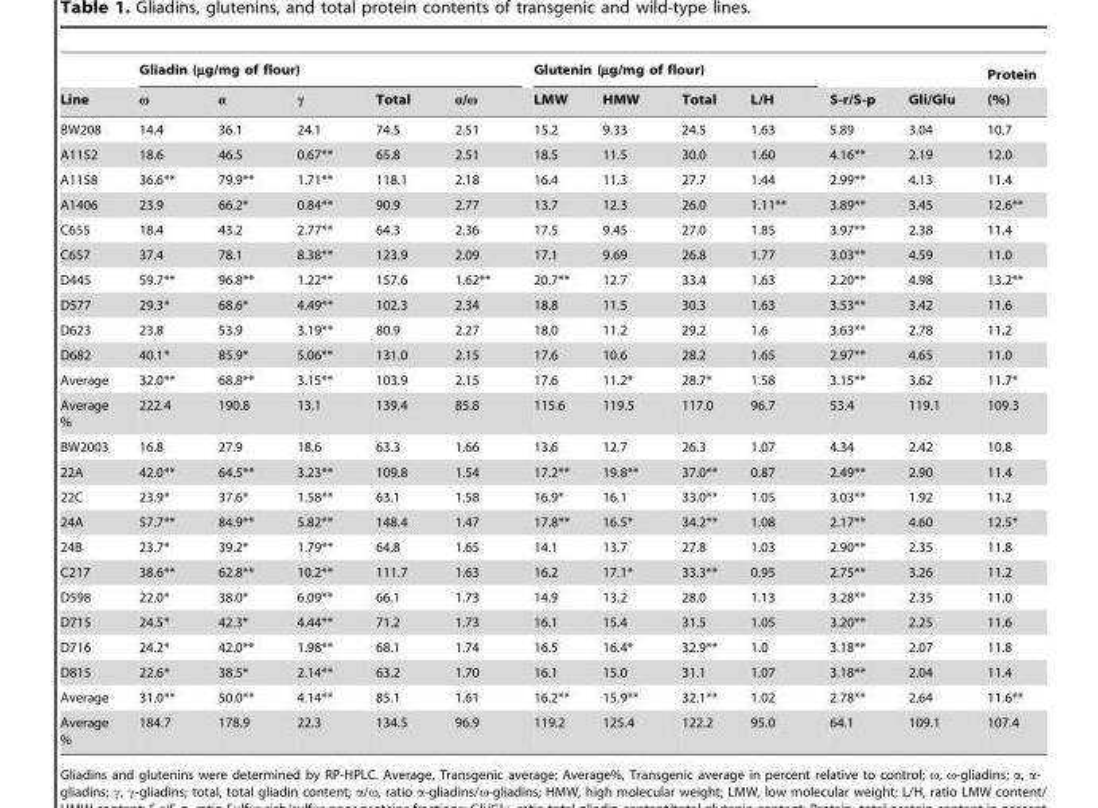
<table><thead><tr><td rowspan="2">Line</td><td colspan="5">Gliadin (µg/mg of flour)</td><td colspan="4">Glutenin (µg/mg of flour)</td><td rowspan="2">S-r/S-p</td><td rowspan="2">Gli/Glu</td><td rowspan="2">Protein (%)</td></tr><tr><td>ω</td><td>α</td><td>γ</td><td>Total</td><td>α/ω</td><td>LMW</td><td>HMW</td><td>Total</td><td>L/H</td></tr></thead><tbody><tr><td>BW208</td><td>14.4</td><td>36.1</td><td>24.1</td><td>74.5</td><td>2.51</td><td>15.2</td><td>9.33</td><td>24.5</td><td>1.63</td><td>5.89</td><td>3.04</td><td>10.7</td></tr><tr><td>A1152</td><td>18.6</td><td>46.5</td><td>0.67**</td><td>65.8</td><td>2.51</td><td>18.5</td><td>11.5</td><td>30.0</td><td>1.60</td><td>4.16**</td><td>2.19</td><td>12.0</td></tr><tr><td>A1158</td><td>36.6**</td><td>79.9**</td><td>1.71**</td><td>118.1</td><td>2.18</td><td>16.4</td><td>11.3</td><td>27.7</td><td>1.44</td><td>2.99**</td><td>4.13</td><td>11.4</td></tr><tr><td>A1406</td><td>23.9</td><td>66.2*</td><td>0.84**</td><td>90.9</td><td>2.77</td><td>13.7</td><td>12.3</td><td>26.0</td><td>1.11**</td><td>3.89**</td><td>3.45</td><td>12.6**</td></tr><tr><td>C655</td><td>18.4</td><td>43.2</td><td>2.77**</td><td>64.3</td><td>2.36</td><td>17.5</td><td>9.45</td><td>27.0</td><td>1.85</td><td>3.97**</td><td>2.38</td><td>11.4</td></tr><tr><td>C657</td><td>37.4</td><td>78.1</td><td>8.38**</td><td>123.9</td><td>2.09</td><td>17.1</td><td>9.69</td><td>26.8</td><td>1.77</td><td>3.03**</td><td>4.59</td><td>11.0</td></tr><tr><td>D445</td><td>59.7**</td><td>96.8**</td><td>1.22**</td><td>157.6</td><td>1.62**</td><td>20.7**</td><td>12.7</td><td>33.4</td><td>1.63</td><td>2.20**</td><td>4.98</td><td>13.2**</td></tr><tr><td>D577</td><td>29.3*</td><td>68.6*</td><td>4.49**</td><td>102.3</td><td>2.34</td><td>18.8</td><td>11.5</td><td>30.3</td><td>1.63</td><td>3.53**</td><td>3.42</td><td>11.6</td></tr><tr><td>D623</td><td>23.8</td><td>53.9</td><td>3.19**</td><td>80.9</td><td>2.27</td><td>18.0</td><td>11.2</td><td>29.2</td><td>1.6</td><td>3.63**</td><td>2.78</td><td>11.2</td></tr><tr><td>D682</td><td>40.1*</td><td>85.9*</td><td>5.06**</td><td>131.0</td><td>2.15</td><td>17.6</td><td>10.6</td><td>28.2</td><td>1.65</td><td>2.97**</td><td>4.65</td><td>11.0</td></tr><tr><td>Average</td><td>32.0**</td><td>68.8**</td><td>3.15**</td><td>103.9</td><td>2.15</td><td>17.6</td><td>11.2*</td><td>28.7*</td><td>1.58</td><td>3.15**</td><td>3.62</td><td>11.7*</td></tr><tr><td>Average %</td><td>222.4</td><td>190.8</td><td>13.1</td><td>139.4</td><td>85.8</td><td>115.6</td><td>119.5</td><td>117.0</td><td>96.7</td><td>53.4</td><td>119.1</td><td>109.3</td></tr><tr><td>BW2003</td><td>16.8</td><td>27.9</td><td>18.6</td><td>63.3</td><td>1.66</td><td>13.6</td><td>12.7</td><td>26.3</td><td>1.07</td><td>4.34</td><td>2.42</td><td>10.8</td></tr><tr><td>22A</td><td>42.0**</td><td>64.5**</td><td>3.23**</td><td>109.8</td><td>1.54</td><td>17.2**</td><td>19.8**</td><td>37.0**</td><td>0.87</td><td>2.49**</td><td>2.90</td><td>11.4</td></tr><tr><td>22C</td><td>23.9*</td><td>37.6*</td><td>1.58**</td><td>63.1</td><td>1.58</td><td>16.9*</td><td>16.1</td><td>33.0**</td><td>1.05</td><td>3.03**</td><td>1.92</td><td>11.2</td></tr><tr><td>24A</td><td>57.7**</td><td>84.9**</td><td>5.82**</td><td>148.4</td><td>1.47</td><td>17.8**</td><td>16.5*</td><td>34.2**</td><td>1.08</td><td>2.17**</td><td>4.60</td><td>12.5*</td></tr><tr><td>24B</td><td>23.7*</td><td>39.2*</td><td>1.79**</td><td>64.8</td><td>1.65</td><td>14.1</td><td>13.7</td><td>27.8</td><td>1.03</td><td>2.90**</td><td>2.35</td><td>11.8</td></tr><tr><td>C217</td><td>38.6**</td><td>62.8**</td><td>10.2**</td><td>111.7</td><td>1.63</td><td>16.2</td><td>17.1*</td><td>33.3**</td><td>0.95</td><td>2.75**</td><td>3.26</td><td>11.2</td></tr><tr><td>D598</td><td>22.0*</td><td>38.0*</td><td>6.09**</td><td>66.1</td><td>1.73</td><td>14.9</td><td>13.2</td><td>28.0</td><td>1.13</td><td>3.28**</td><td>2.35</td><td>11.0</td></tr><tr><td>D715</td><td>24.5*</td><td>42.3*</td><td>4.44**</td><td>71.2</td><td>1.73</td><td>16.1</td><td>15.4</td><td>31.5</td><td>1.05</td><td>3.20**</td><td>2.25</td><td>11.6</td></tr><tr><td>D716</td><td>24.2*</td><td>42.0**</td><td>1.98**</td><td>68.1</td><td>1.74</td><td>16.5</td><td>16.4*</td><td>32.9**</td><td>1.0</td><td>3.18**</td><td>2.07</td><td>11.8</td></tr><tr><td>D815</td><td>22.6*</td><td>38.5*</td><td>2.14**</td><td>63.2</td><td>1.70</td><td>16.1</td><td>15.0</td><td>31.1</td><td>1.07</td><td>3.18**</td><td>2.04</td><td>11.4</td></tr><tr><td>Average</td><td>31.0**</td><td>50.0**</td><td>4.14**</td><td>85.1</td><td>1.61</td><td>16.2**</td><td>15.9**</td><td>32.1**</td><td>1.02</td><td>2.78**</td><td>2.64</td><td>11.6**</td></tr><tr><td>Average %</td><td>184.7</td><td>178.9</td><td>22.3</td><td>134.5</td><td>96.9</td><td>119.2</td><td>125.4</td><td>122.2</td><td>95.0</td><td>64.1</td><td>109.1</td><td>107.4</td></tr></tbody></table>